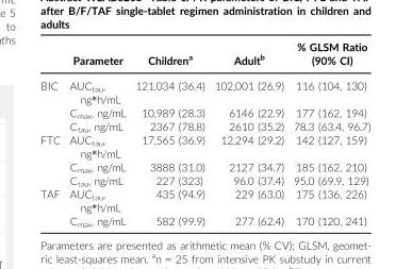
<table><thead><tr><td></td><td>Parameter</td><td>Children<sup>a</sup></td><td>Adult<sup>b</sup></td><td>% GLSM Ratio (90% CI)</td></tr></thead><tbody><tr><td rowspan="3">BIC</td><td>AUCtau, ng*h/mL</td><td>121,034 (36.4)</td><td>102,001 (26.9)</td><td>116 (104, 130)</td></tr><tr><td>Cmax, ng/mL</td><td>10,989 (28.3)</td><td>6146 (22.9)</td><td>177 (162, 194)</td></tr><tr><td>Ctau, ng/mL</td><td>2367 (78.8)</td><td>2610 (35.2)</td><td>78.3 (63.4, 96.7)</td></tr><tr><td rowspan="3">FTC</td><td>AUCtau, ng*h/mL</td><td>17,565 (36.9)</td><td>12,294 (29.2)</td><td>142 (127, 159)</td></tr><tr><td>Cmax, ng/mL</td><td>3888 (31.0)</td><td>2127 (34.7)</td><td>185 (162, 210)</td></tr><tr><td>Ctau, ng/mL</td><td>227 (323)</td><td>96.0 (37.4)</td><td>95.0 (69.9, 129)</td></tr><tr><td rowspan="2">TAF</td><td>AUCtau, ng*h/mL</td><td>435 (94.9)</td><td>229 (63.0)</td><td>175 (136, 226)</td></tr><tr><td>Cmax, ng/mL</td><td>582 (99.9)</td><td>277 (62.4)</td><td>170 (120, 241)</td></tr></tbody></table>